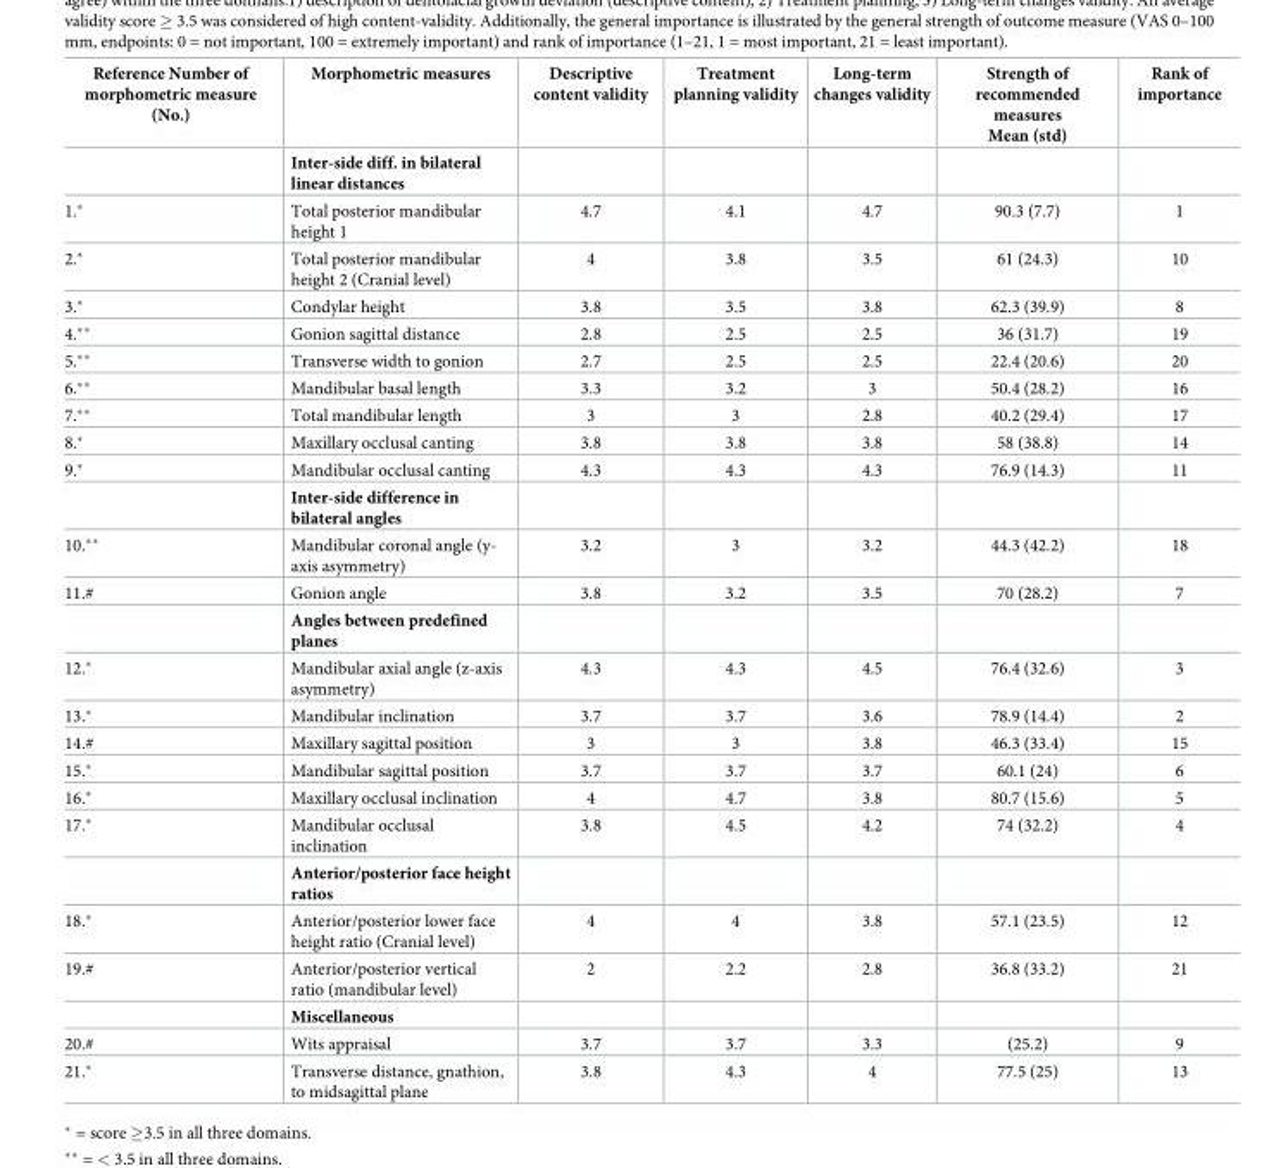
<table><thead><tr><td>Reference Number of morphometric measure (No.)</td><td>Morphometric measures</td><td>Descriptive content validity</td><td>Treatment planning validity</td><td>Long-term changes validity</td><td>Strength of recommended measures Mean (std)</td><td>Rank of importance</td></tr></thead><tbody><tr><td></td><td>Inter-side diff. in bilateral linear distances</td><td></td><td></td><td></td><td></td><td></td></tr><tr><td>1.*</td><td>Total posterior mandibular height 1</td><td>4.7</td><td>4.1</td><td>4.7</td><td>90.3 (7.7)</td><td>1</td></tr><tr><td>2.*</td><td>Total posterior mandibular height 2 (Cranial level)</td><td>4</td><td>3.8</td><td>3.5</td><td>61 (24.3)</td><td>10</td></tr><tr><td>3.*</td><td>Condylar height</td><td>3.8</td><td>3.5</td><td>3.8</td><td>62.3 (39.9)</td><td>8</td></tr><tr><td>4.**</td><td>Gonion sagittal distance</td><td>2.8</td><td>2.5</td><td>2.5</td><td>36 (31.7)</td><td>19</td></tr><tr><td>5.**</td><td>Transverse width to gonion</td><td>2.7</td><td>2.5</td><td>2.5</td><td>22.4 (20.6)</td><td>20</td></tr><tr><td>6.**</td><td>Mandibular basal length</td><td>3.3</td><td>3.2</td><td>3</td><td>50.4 (28.2)</td><td>16</td></tr><tr><td>7.**</td><td>Total mandibular length</td><td>3</td><td>3</td><td>2.8</td><td>40.2 (29.4)</td><td>17</td></tr><tr><td>8.*</td><td>Maxillary occlusal canting</td><td>3.8</td><td>3.8</td><td>3.8</td><td>58 (38.8)</td><td>14</td></tr><tr><td rowspan="2">9.*</td><td>Mandibular occlusal canting</td><td>4.3</td><td>4.3</td><td>4.3</td><td>76.9 (14.3)</td><td>11</td></tr><tr><td>Inter-side difference in bilateral angles</td><td></td><td></td><td></td><td></td><td></td></tr><tr><td>10.**</td><td>Mandibular coronal angle (y- axis asymmetry)</td><td>3.2</td><td>3</td><td>3.2</td><td>44.3 (42.2)</td><td>18</td></tr><tr><td rowspan="2">11.#</td><td>Gonion angle</td><td>3.8</td><td>3.2</td><td>3.5</td><td>70 (28.2)</td><td>7</td></tr><tr><td>Angles between predefined planes</td><td></td><td></td><td></td><td></td><td></td></tr><tr><td>12.*</td><td>Mandibular axial angle (z-axis asymmetry)</td><td>4.3</td><td>4.3</td><td>4.5</td><td>76.4 (32.6)</td><td>3</td></tr><tr><td>13.*</td><td>Mandibular inclination</td><td>3.7</td><td>3.7</td><td>3.6</td><td>78.9 (14.4)</td><td>2</td></tr><tr><td>14.#</td><td>Maxillary sagittal position</td><td>3</td><td>3</td><td>3.8</td><td>46.3 (33.4)</td><td>15</td></tr><tr><td>15.*</td><td>Mandibular sagittal position</td><td>3.7</td><td>3.7</td><td>3.7</td><td>60.1 (24)</td><td>6</td></tr><tr><td>16.*</td><td>Maxillary occlusal inclination</td><td>4</td><td>4.7</td><td>3.8</td><td>80.7 (15.6)</td><td>5</td></tr><tr><td rowspan="2">17.*</td><td>Mandibular occlusal inclination</td><td>3.8</td><td>4.5</td><td>4.2</td><td>74 (32.2)</td><td>4</td></tr><tr><td>Anterior/posterior face height ratios</td><td></td><td></td><td></td><td></td><td></td></tr><tr><td>18.*</td><td>Anterior/posterior lower face height ratio (Cranial level)</td><td>4</td><td>4</td><td>3.8</td><td>57.1 (23.5)</td><td>12</td></tr><tr><td rowspan="2">19.#</td><td>Anterior/posterior vertical ratio (mandibular level)</td><td>2</td><td>2.2</td><td>2.8</td><td>36.8 (33.2)</td><td>21</td></tr><tr><td>Miscellaneous</td><td></td><td></td><td></td><td></td><td></td></tr><tr><td>20.#</td><td>Wits appraisal</td><td>3.7</td><td>3.7</td><td>3.3</td><td>(25.2)</td><td>9</td></tr><tr><td>21.*</td><td>Transverse distance, gnathion, to midsagittal plane</td><td>3.8</td><td>4.3</td><td>4</td><td>77.5 (25)</td><td>13</td></tr></tbody></table>